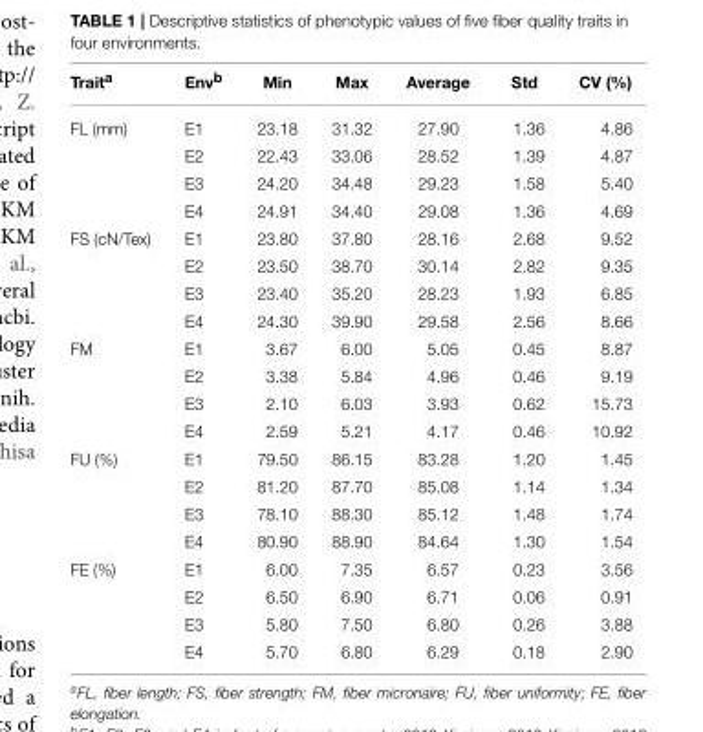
<table><thead><tr><td>Trait<sup>a</sup></td><td>Env<sup>b</sup></td><td>Min</td><td>Max</td><td>Average</td><td>Std</td><td>CV (%)</td></tr></thead><tbody><tr><td rowspan="4">FL (mm)</td><td>E1</td><td>23.18</td><td>31.32</td><td>27.90</td><td>1.36</td><td>4.86</td></tr><tr><td>E2</td><td>22.43</td><td>33.06</td><td>28.52</td><td>1.39</td><td>4.87</td></tr><tr><td>E3</td><td>24.20</td><td>34.48</td><td>29.23</td><td>1.58</td><td>5.40</td></tr><tr><td>E4</td><td>24.91</td><td>34.40</td><td>29.08</td><td>1.36</td><td>4.69</td></tr><tr><td rowspan="4">FS (cN/Tex)</td><td>E1</td><td>23.80</td><td>37.80</td><td>28.16</td><td>2.68</td><td>9.52</td></tr><tr><td>E2</td><td>23.50</td><td>38.70</td><td>30.14</td><td>2.82</td><td>9.35</td></tr><tr><td>E3</td><td>23.40</td><td>35.20</td><td>28.23</td><td>1.93</td><td>6.85</td></tr><tr><td>E4</td><td>24.30</td><td>39.90</td><td>29.58</td><td>2.56</td><td>8.66</td></tr><tr><td rowspan="4">FM</td><td>E1</td><td>3.67</td><td>6.00</td><td>5.05</td><td>0.45</td><td>8.87</td></tr><tr><td>E2</td><td>3.38</td><td>5.84</td><td>4.96</td><td>0.46</td><td>9.19</td></tr><tr><td>E3</td><td>2.10</td><td>6.03</td><td>3.93</td><td>0.62</td><td>15.73</td></tr><tr><td>E4</td><td>2.59</td><td>5.21</td><td>4.17</td><td>0.46</td><td>10.92</td></tr><tr><td rowspan="4">FU (%)</td><td>E1</td><td>79.50</td><td>86.15</td><td>83.28</td><td>1.20</td><td>1.45</td></tr><tr><td>E2</td><td>81.20</td><td>87.70</td><td>85.08</td><td>1.14</td><td>1.34</td></tr><tr><td>E3</td><td>78.10</td><td>88.30</td><td>85.12</td><td>1.48</td><td>1.74</td></tr><tr><td>E4</td><td>80.90</td><td>88.90</td><td>84.64</td><td>1.30</td><td>1.54</td></tr><tr><td rowspan="4">FE (%)</td><td>E1</td><td>6.00</td><td>7.35</td><td>6.57</td><td>0.23</td><td>3.56</td></tr><tr><td>E2</td><td>6.50</td><td>6.90</td><td>6.71</td><td>0.06</td><td>0.91</td></tr><tr><td>E3</td><td>5.80</td><td>7.50</td><td>6.80</td><td>0.26</td><td>3.88</td></tr><tr><td>E4</td><td>5.70</td><td>6.80</td><td>6.29</td><td>0.18</td><td>2.90</td></tr></tbody></table>